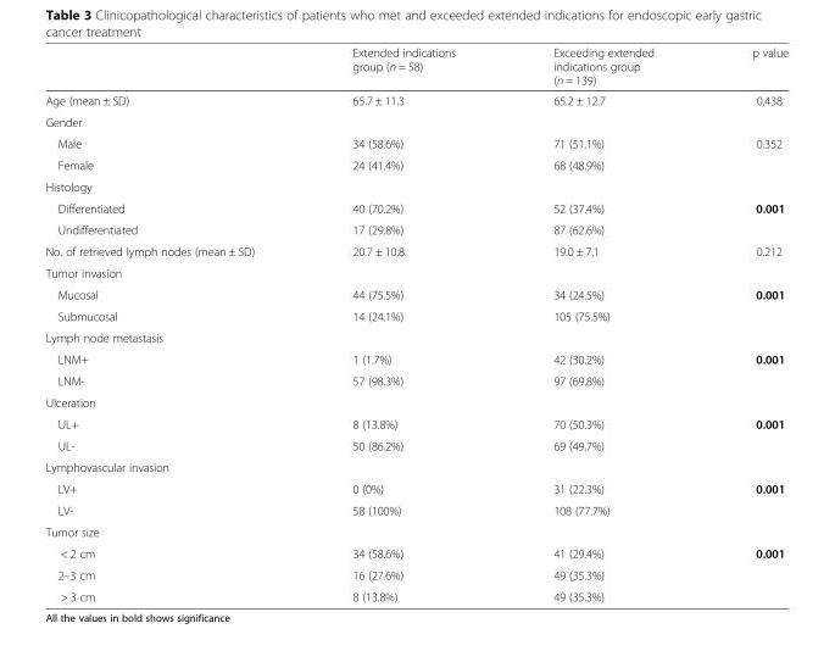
<table><thead><tr><td></td><td>Extended indications group (n = 58)</td><td>Exceeding extended indications group (n = 139)</td><td>p value</td></tr></thead><tbody><tr><td>Age (mean ± SD)</td><td>65.7 ± 11.3</td><td>65.2 ± 12.7</td><td>0.438</td></tr><tr><td colspan="4">Gender</td></tr><tr><td>Male</td><td>34 (58.6%)</td><td>71 (51.1%)</td><td rowspan="2">0.352</td></tr><tr><td>Female</td><td>24 (41.4%)</td><td>68 (48.9%)</td></tr><tr><td colspan="4">Histology</td></tr><tr><td>Differentiated</td><td>40 (70.2%)</td><td>52 (37.4%)</td><td rowspan="2">0.001</td></tr><tr><td>Undifferentiated</td><td>17 (29.8%)</td><td>87 (62.6%)</td></tr><tr><td>No. of retrieved lymph nodes (mean ± SD)</td><td>20.7 ± 10.8</td><td>19.0 ± 7.1</td><td>0.212</td></tr><tr><td colspan="4">Tumor invasion</td></tr><tr><td>Mucosal</td><td>44 (75.5%)</td><td>34 (24.5%)</td><td rowspan="2">0.001</td></tr><tr><td>Submucosal</td><td>14 (24.1%)</td><td>105 (75.5%)</td></tr><tr><td colspan="4">Lymph node metastasis</td></tr><tr><td>LNM+</td><td>1 (1.7%)</td><td>42 (30.2%)</td><td rowspan="2">0.001</td></tr><tr><td>LNM-</td><td>57 (98.3%)</td><td>97 (69.8%)</td></tr><tr><td colspan="4">Ulceration</td></tr><tr><td>UL+</td><td>8 (13.8%)</td><td>70 (50.3%)</td><td rowspan="2">0.001</td></tr><tr><td>UL-</td><td>50 (86.2%)</td><td>69 (49.7%)</td></tr><tr><td colspan="4">Lymphovascular invasion</td></tr><tr><td>LV+</td><td>0 (0%)</td><td>31 (22.3%)</td><td rowspan="2">0.001</td></tr><tr><td>LV-</td><td>58 (100%)</td><td>108 (77.7%)</td></tr><tr><td colspan="4">Tumor size</td></tr><tr><td>&lt; 2 cm</td><td>34 (58.6%)</td><td>41 (29.4%)</td><td rowspan="3">0.001</td></tr><tr><td>2–3 cm</td><td>16 (27.6%)</td><td>49 (35.3%)</td></tr><tr><td>&gt; 3 cm</td><td>8 (13.8%)</td><td>49 (35.3%)</td></tr></tbody></table>